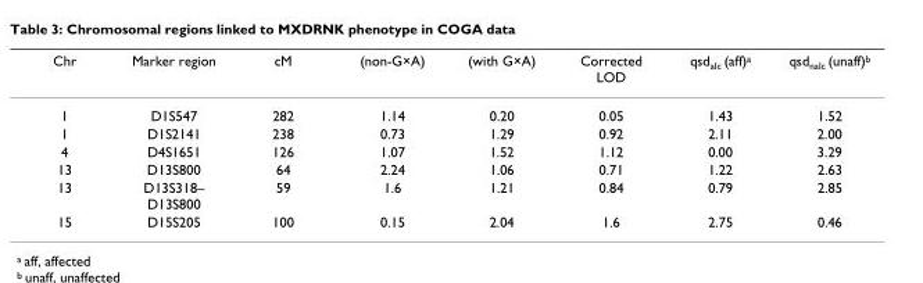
<table><thead><tr><td>Chr</td><td>Marker region</td><td>cM</td><td>(non-G×A)</td><td>(with G×A)</td><td>Corrected LOD</td><td>qsdalc (aff)a</td><td>qsdnalc (unaff)b</td></tr></thead><tbody><tr><td>1</td><td>D1S547</td><td>282</td><td>1.14</td><td>0.20</td><td>0.05</td><td>1.43</td><td>1.52</td></tr><tr><td>1</td><td>D1S2141</td><td>238</td><td>0.73</td><td>1.29</td><td>0.92</td><td>2.11</td><td>2.00</td></tr><tr><td>4</td><td>D4S1651</td><td>126</td><td>1.07</td><td>1.52</td><td>1.12</td><td>0.00</td><td>3.29</td></tr><tr><td>13</td><td>D13S800</td><td>64</td><td>2.24</td><td>1.06</td><td>0.71</td><td>1.22</td><td>2.63</td></tr><tr><td>13</td><td>D13S318– D13S800</td><td>59</td><td>1.6</td><td>1.21</td><td>0.84</td><td>0.79</td><td>2.85</td></tr><tr><td>15</td><td>D15S205</td><td>100</td><td>0.15</td><td>2.04</td><td>1.6</td><td>2.75</td><td>0.46</td></tr></tbody></table>